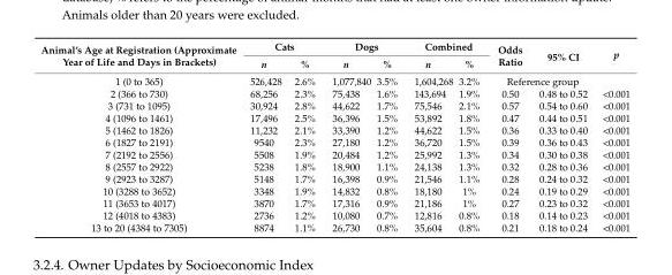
<table><thead><tr><td rowspan="2">Animal’s Age at Registration (Approximate Year of Life and Days in Brackets)</td><td colspan="2">Cats</td><td colspan="2">Dogs</td><td colspan="2">Combined</td><td rowspan="2">Odds Ratio</td><td rowspan="2">95% CI</td><td rowspan="2">p</td></tr><tr><td>n</td><td>%</td><td>n</td><td>%</td><td>n</td><td>%</td></tr></thead><tbody><tr><td>1 (0 to 365)</td><td>526,428</td><td>2.6%</td><td>1,077,840</td><td>3.5%</td><td>1,604,268</td><td>3.2%</td><td colspan="2">Reference group</td><td></td></tr><tr><td>2 (366 to 730)</td><td>68,256</td><td>2.3%</td><td>75,438</td><td>1.6%</td><td>143,694</td><td>1.9%</td><td>0.50</td><td>0.48 to 0.52</td><td>&lt;0.001</td></tr><tr><td>3 (731 to 1095)</td><td>30,924</td><td>2.8%</td><td>44,622</td><td>1.7%</td><td>75,546</td><td>2.1%</td><td>0.57</td><td>0.54 to 0.60</td><td>&lt;0.001</td></tr><tr><td>4 (1096 to 1461)</td><td>17,496</td><td>2.5%</td><td>36,396</td><td>1.5%</td><td>53,892</td><td>1.8%</td><td>0.47</td><td>0.44 to 0.51</td><td>&lt;0.001</td></tr><tr><td>5 (1462 to 1826)</td><td>11,232</td><td>2.1%</td><td>33,390</td><td>1.2%</td><td>44,622</td><td>1.5%</td><td>0.36</td><td>0.33 to 0.40</td><td>&lt;0.001</td></tr><tr><td>6 (1827 to 2191)</td><td>9540</td><td>2.3%</td><td>27,180</td><td>1.2%</td><td>36,720</td><td>1.5%</td><td>0.39</td><td>0.36 to 0.43</td><td>&lt;0.001</td></tr><tr><td>7 (2192 to 2556)</td><td>5508</td><td>1.9%</td><td>20,484</td><td>1.2%</td><td>25,992</td><td>1.3%</td><td>0.34</td><td>0.30 to 0.38</td><td>&lt;0.001</td></tr><tr><td>8 (2557 to 2922)</td><td>5238</td><td>1.8%</td><td>18,900</td><td>1.1%</td><td>24,138</td><td>1.3%</td><td>0.32</td><td>0.28 to 0.36</td><td>&lt;0.001</td></tr><tr><td>9 (2923 to 3287)</td><td>5148</td><td>1.7%</td><td>16,398</td><td>0.9%</td><td>21,546</td><td>1.1%</td><td>0.28</td><td>0.24 to 0.32</td><td>&lt;0.001</td></tr><tr><td>10 (3288 to 3652)</td><td>3348</td><td>1.9%</td><td>14,832</td><td>0.8%</td><td>18,180</td><td>1%</td><td>0.24</td><td>0.19 to 0.29</td><td>&lt;0.001</td></tr><tr><td>11 (3653 to 4017)</td><td>3870</td><td>1.7%</td><td>17,316</td><td>0.9%</td><td>21,186</td><td>1%</td><td>0.27</td><td>0.23 to 0.32</td><td>&lt;0.001</td></tr><tr><td>12 (4018 to 4383)</td><td>2736</td><td>1.2%</td><td>10,080</td><td>0.7%</td><td>12,816</td><td>0.8%</td><td>0.18</td><td>0.14 to 0.23</td><td>&lt;0.001</td></tr><tr><td>13 to 20 (4384 to 7305)</td><td>8874</td><td>1.1%</td><td>26,730</td><td>0.8%</td><td>35,604</td><td>0.8%</td><td>0.21</td><td>0.18 to 0.24</td><td>&lt;0.001</td></tr></tbody></table>